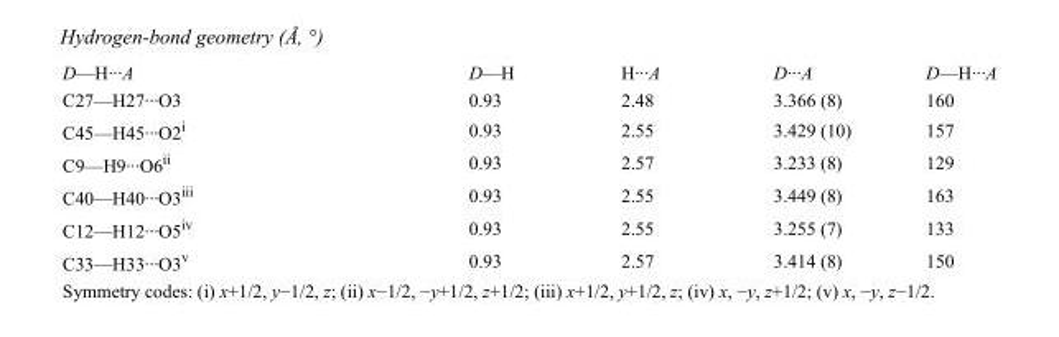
<table><tbody><tr><td>D—H···A</td><td>D—H</td><td>H···A</td><td>D···A</td><td>D—H···A</td></tr><tr><td>C27—H27···O3</td><td>0.93</td><td>2.48</td><td>3.366 (8)</td><td>160</td></tr><tr><td>C45—H45···O2<sup>i</sup></td><td>0.93</td><td>2.55</td><td>3.429 (10)</td><td>157</td></tr><tr><td>C9—H9···O6<sup>ii</sup></td><td>0.93</td><td>2.57</td><td>3.233 (8)</td><td>129</td></tr><tr><td>C40—H40···O3<sup>iii</sup></td><td>0.93</td><td>2.55</td><td>3.449 (8)</td><td>163</td></tr><tr><td>C12—H12···O5<sup>iv</sup></td><td>0.93</td><td>2.55</td><td>3.255 (7)</td><td>133</td></tr><tr><td>C33—H33···O3<sup>v</sup></td><td>0.93</td><td>2.57</td><td>3.414 (8)</td><td>150</td></tr></tbody></table>